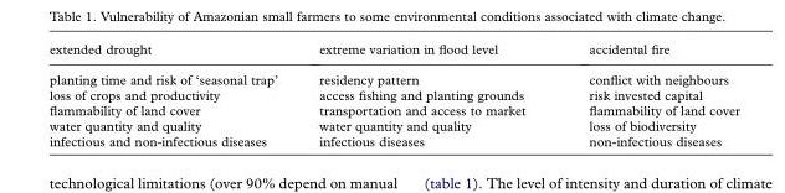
<table><thead><tr><td>extended drought</td><td>extreme variation in flood level</td><td>accidental fire</td></tr></thead><tbody><tr><td>planting time and risk of ‘seasonal trap’</td><td>residency pattern</td><td>conflict with neighbours</td></tr><tr><td>loss of crops and productivity</td><td>access fishing and planting grounds</td><td>risk invested capital</td></tr><tr><td>flammability of land cover</td><td>transportation and access to market</td><td>flammability of land cover</td></tr><tr><td>water quantity and quality</td><td>water quantity and quality</td><td>loss of biodiversity</td></tr><tr><td>infectious and non-infectious diseases</td><td>infectious diseases</td><td>non-infectious diseases</td></tr></tbody></table>